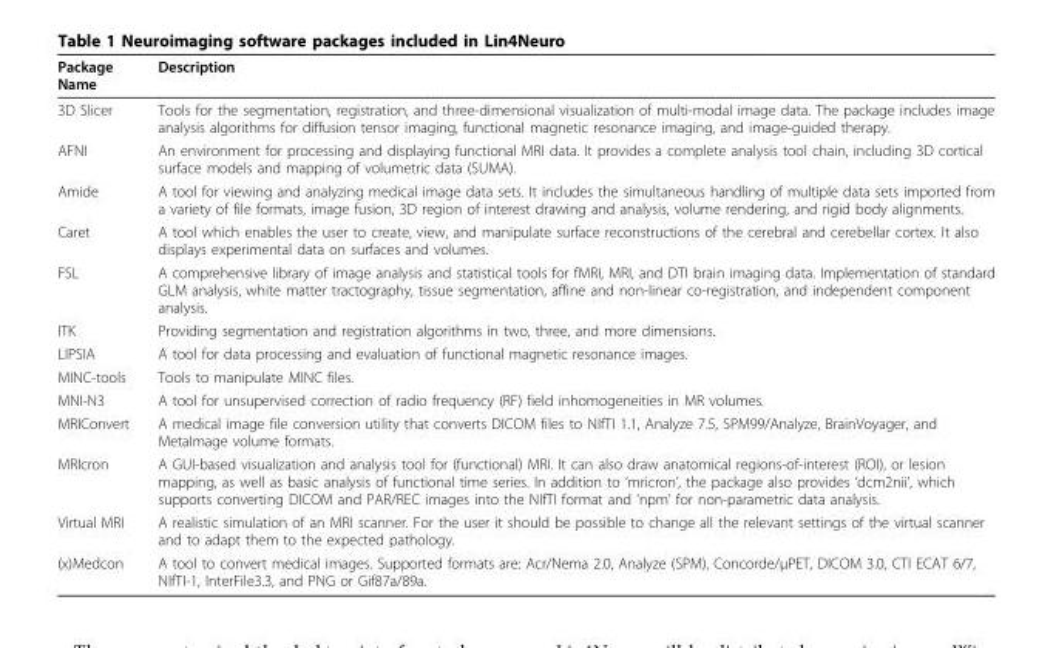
<table><thead><tr><td>Package Name</td><td>Description</td></tr></thead><tbody><tr><td>3D Slicer</td><td>Tools for the segmentation, registration, and three-dimensional visualization of multi-modal image data. The package includes image analysis algorithms for diffusion tensor imaging, functional magnetic resonance imaging, and image-guided therapy.</td></tr><tr><td>AFNI</td><td>An environment for processing and displaying functional MRI data. It provides a complete analysis tool chain, including 3D cortical surface models and mapping of volumetric data (SUMA).</td></tr><tr><td>Amide</td><td>A tool for viewing and analyzing medical image data sets. It includes the simultaneous handling of multiple data sets imported from a variety of file formats, image fusion, 3D region of interest drawing and analysis, volume rendering, and rigid body alignments.</td></tr><tr><td>Caret</td><td>A tool which enables the user to create, view, and manipulate surface reconstructions of the cerebral and cerebellar cortex. It also displays experimental data on surfaces and volumes.</td></tr><tr><td>FSL</td><td>A comprehensive library of image analysis and statistical tools for fMRI, MRI, and DTI brain imaging data. Implementation of standard GLM analysis, white matter tractography, tissue segmentation, affine and non-linear co-registration, and independent component analysis.</td></tr><tr><td>ITK</td><td>Providing segmentation and registration algorithms in two, three, and more dimensions.</td></tr><tr><td>LIPSIA</td><td>A tool for data processing and evaluation of functional magnetic resonance images.</td></tr><tr><td>MINC-tools</td><td>Tools to manipulate MINC files.</td></tr><tr><td>MNI-N3</td><td>A tool for unsupervised correction of radio frequency (RF) field inhomogeneities in MR volumes.</td></tr><tr><td>MRIConvert</td><td>A medical image file conversion utility that converts DICOM files to NIfTI 1.1, Analyze 7.5, SPM99/Analyze, BrainVoyager, and MetaImage volume formats.</td></tr><tr><td>MRIcron</td><td>A GUI-based visualization and analysis tool for (functional) MRI. It can also draw anatomical regions-of-interest (ROI), or lesion mapping, as well as basic analysis of functional time series. In addition to ‘mricron’, the package also provides ‘dcm2nii’, which supports converting DICOM and PAR/REC images into the NIfTI format and ‘npm’ for non-parametric data analysis.</td></tr><tr><td>Virtual MRI</td><td>A realistic simulation of an MRI scanner. For the user it should be possible to change all the relevant settings of the virtual scanner and to adapt them to the expected pathology.</td></tr><tr><td>(x)Medcon</td><td>A tool to convert medical images. Supported formats are: Acr/Nema 2.0, Analyze (SPM), Concorde/μPET, DICOM 3.0, CTI ECAT 6/7, NIfTI-1, InterFile3.3, and PNG or Gif87a/89a.</td></tr></tbody></table>